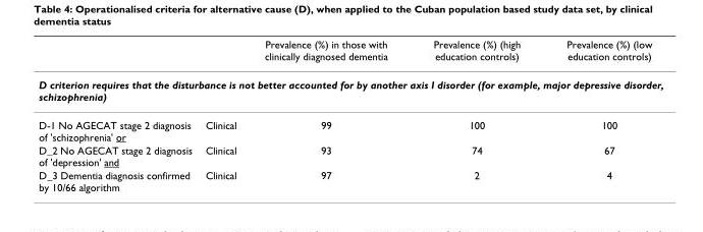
<table><thead><tr><td></td><td></td><td>Prevalence (%) in those with clinically diagnosed dementia</td><td>Prevalence (%) (high education controls)</td><td>Prevalence (%) (low education controls)</td></tr></thead><tbody><tr><td colspan="5">D criterion requires that the disturbance is not better accounted for by another axis I disorder (for example, major depressive disorder, schizophrenia)</td></tr><tr><td>D-1 No AGECAT stage 2 diagnosis of &#x27;schizophrenia&#x27; or</td><td>Clinical</td><td>99</td><td>100</td><td>100</td></tr><tr><td>D_2 No AGECAT stage 2 diagnosis of &#x27;depression&#x27; and</td><td>Clinical</td><td>93</td><td>74</td><td>67</td></tr><tr><td>D_3 Dementia diagnosis confirmed by 10/66 algorithm</td><td>Clinical</td><td>97</td><td>2</td><td>4</td></tr></tbody></table>